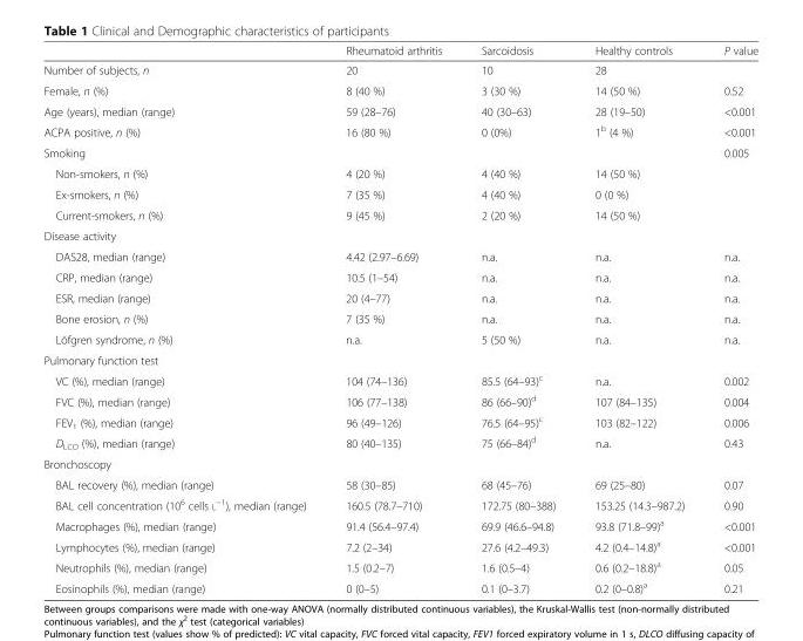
<table><thead><tr><td></td><td>Rheumatoid arthritis</td><td>Sarcoidosis</td><td>Healthy controls</td><td>P value</td></tr></thead><tbody><tr><td>Number of subjects, n</td><td>20</td><td>10</td><td>28</td><td></td></tr><tr><td>Female, n (%)</td><td>8 (40 %)</td><td>3 (30 %)</td><td>14 (50 %)</td><td>0.52</td></tr><tr><td>Age (years), median (range)</td><td>59 (28–76)</td><td>40 (30–63)</td><td>28 (19–50)</td><td>&lt;0.001</td></tr><tr><td>ACPA positive, n (%)</td><td>16 (80 %)</td><td>0 (0%)</td><td>1<sup>b</sup> (4 %)</td><td>&lt;0.001</td></tr><tr><td>Smoking</td><td></td><td></td><td></td><td>0.005</td></tr><tr><td>Non-smokers, n (%)</td><td>4 (20 %)</td><td>4 (40 %)</td><td>14 (50 %)</td><td></td></tr><tr><td>Ex-smokers, n (%)</td><td>7 (35 %)</td><td>4 (40 %)</td><td>0 (0 %)</td><td></td></tr><tr><td>Current-smokers, n (%)</td><td>9 (45 %)</td><td>2 (20 %)</td><td>14 (50 %)</td><td></td></tr><tr><td colspan="5">Disease activity</td></tr><tr><td>DAS28, median (range)</td><td>4.42 (2.97–6.69)</td><td>n.a.</td><td>n.a.</td><td>n.a.</td></tr><tr><td>CRP, median (range)</td><td>10.5 (1–54)</td><td>n.a.</td><td>n.a.</td><td>n.a.</td></tr><tr><td>ESR, median (range)</td><td>20 (4–77)</td><td>n.a.</td><td>n.a.</td><td>n.a.</td></tr><tr><td>Bone erosion, n (%)</td><td>7 (35 %)</td><td>n.a.</td><td>n.a.</td><td>n.a.</td></tr><tr><td>Löfgren syndrome, n (%)</td><td>n.a.</td><td>5 (50 %)</td><td>n.a.</td><td>n.a.</td></tr><tr><td colspan="5">Pulmonary function test</td></tr><tr><td>VC (%), median (range)</td><td>104 (74–136)</td><td>85.5 (64–93)<sup>c</sup></td><td>n.a.</td><td>0.002</td></tr><tr><td>FVC (%), median (range)</td><td>106 (77–138)</td><td>86 (66–90)<sup>d</sup></td><td>107 (84–135)</td><td>0.004</td></tr><tr><td>FEV<sub>1</sub> (%), median (range)</td><td>96 (49–126)</td><td>76.5 (64–95)<sup>c</sup></td><td>103 (82–122)</td><td>0.006</td></tr><tr><td>D<sub>LCO</sub> (%), median (range)</td><td>80 (40–135)</td><td>75 (66–84)<sup>d</sup></td><td>n.a.</td><td>0.43</td></tr><tr><td colspan="5">Bronchoscopy</td></tr><tr><td>BAL recovery (%), median (range)</td><td>58 (30–85)</td><td>68 (45–76)</td><td>69 (25–80)</td><td>0.07</td></tr><tr><td>BAL cell concentration (10<sup>6</sup> cells L<sup>−1</sup>), median (range)</td><td>160.5 (78.7–710)</td><td>172.75 (80–388)</td><td>153.25 (14.3–987.2)</td><td>0.90</td></tr><tr><td>Macrophages (%), median (range)</td><td>91.4 (56.4–97.4)</td><td>69.9 (46.6–94.8)</td><td>93.8 (71.8–99)<sup>a</sup></td><td>&lt;0.001</td></tr><tr><td>Lymphocytes (%), median (range)</td><td>7.2 (2–34)</td><td>27.6 (4.2–49.3)</td><td>4.2 (0.4–14.8)<sup>a</sup></td><td>&lt;0.001</td></tr><tr><td>Neutrophils (%), median (range)</td><td>1.5 (0.2–7)</td><td>1.6 (0.5–4)</td><td>0.6 (0.2–18.8)<sup>a</sup></td><td>0.05</td></tr><tr><td>Eosinophils (%), median (range)</td><td>0 (0–5)</td><td>0.1 (0–3.7)</td><td>0.2 (0–0.8)<sup>a</sup></td><td>0.21</td></tr></tbody></table>